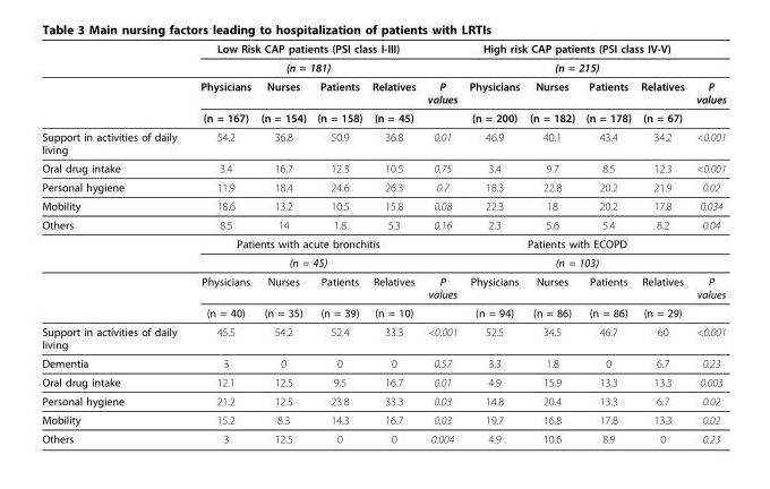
<table><thead><tr><td rowspan="3"></td><td rowspan="2" colspan="4">Low Risk CAP patients (PSI class I-III) (n = 181)</td><td rowspan="3">P values</td><td rowspan="2" colspan="4">High risk CAP patients (PSI class IV-V) (n = 215)</td><td rowspan="3">P values</td></tr><tr></tr><tr><td>Physicians</td><td>Nurses</td><td>Patients</td><td>Relatives</td><td>Physicians</td><td>Nurses</td><td>Patients</td><td>Relatives</td></tr></thead><tbody><tr><td></td><td>(n = 167)</td><td>(n = 154)</td><td>(n = 158)</td><td>(n = 45)</td><td></td><td>(n = 200)</td><td>(n = 182)</td><td>(n = 178)</td><td>(n = 67)</td><td></td></tr><tr><td>Support in activities of daily living</td><td>54.2</td><td>36.8</td><td>50.9</td><td>36.8</td><td>0.01</td><td>46.9</td><td>40.1</td><td>43.4</td><td>34.2</td><td>&lt;0.001</td></tr><tr><td>Oral drug intake</td><td>3.4</td><td>16.7</td><td>12.3</td><td>10.5</td><td>0.75</td><td>3.4</td><td>9.7</td><td>8.5</td><td>12.3</td><td>&lt;0.001</td></tr><tr><td>Personal hygiene</td><td>11.9</td><td>18.4</td><td>24.6</td><td>26.3</td><td>0.7</td><td>18.3</td><td>22.8</td><td>20.2</td><td>21.9</td><td>0.02</td></tr><tr><td>Mobility</td><td>18.6</td><td>13.2</td><td>10.5</td><td>15.8</td><td>0.08</td><td>22.3</td><td>18</td><td>20.2</td><td>17.8</td><td>0.034</td></tr><tr><td rowspan="5">Others</td><td>8.5</td><td>14</td><td>1.8</td><td>5.3</td><td>0.16</td><td>2.3</td><td>5.6</td><td>5.4</td><td>8.2</td><td>0.04</td></tr><tr><td colspan="4">Patients with acute bronchitis</td><td></td><td colspan="4">Patients with ECOPD</td><td></td></tr><tr><td colspan="4">(n = 45)</td><td></td><td colspan="4">(n = 103)</td><td></td></tr><tr><td>Physicians</td><td>Nurses</td><td>Patients</td><td>Relatives</td><td>P values</td><td>Physicians</td><td>Nurses</td><td>Patients</td><td>Relatives</td><td>P values</td></tr><tr><td>(n = 40)</td><td>(n = 35)</td><td>(n = 39)</td><td>(n = 10)</td><td></td><td>(n = 94)</td><td>(n = 86)</td><td>(n = 86)</td><td>(n = 29)</td><td></td></tr><tr><td>Support in activities of daily living</td><td>45.5</td><td>54.2</td><td>52.4</td><td>33.3</td><td>&lt;0.001</td><td>52.5</td><td>34.5</td><td>46.7</td><td>60</td><td>&lt;0.001</td></tr><tr><td>Dementia</td><td>3</td><td>0</td><td>0</td><td>0</td><td>0.57</td><td>3.3</td><td>1.8</td><td>0</td><td>6.7</td><td>0.23</td></tr><tr><td>Oral drug intake</td><td>12.1</td><td>12.5</td><td>9.5</td><td>16.7</td><td>0.01</td><td>4.9</td><td>15.9</td><td>13.3</td><td>13.3</td><td>0.003</td></tr><tr><td>Personal hygiene</td><td>21.2</td><td>12.5</td><td>23.8</td><td>33.3</td><td>0.03</td><td>14.8</td><td>20.4</td><td>13.3</td><td>6.7</td><td>0.02</td></tr><tr><td>Mobility</td><td>15.2</td><td>8.3</td><td>14.3</td><td>16.7</td><td>0.03</td><td>19.7</td><td>16.8</td><td>17.8</td><td>13.3</td><td>0.02</td></tr><tr><td>Others</td><td>3</td><td>12.5</td><td>0</td><td>0</td><td>0.004</td><td>4.9</td><td>10.6</td><td>8.9</td><td>0</td><td>0.23</td></tr></tbody></table>